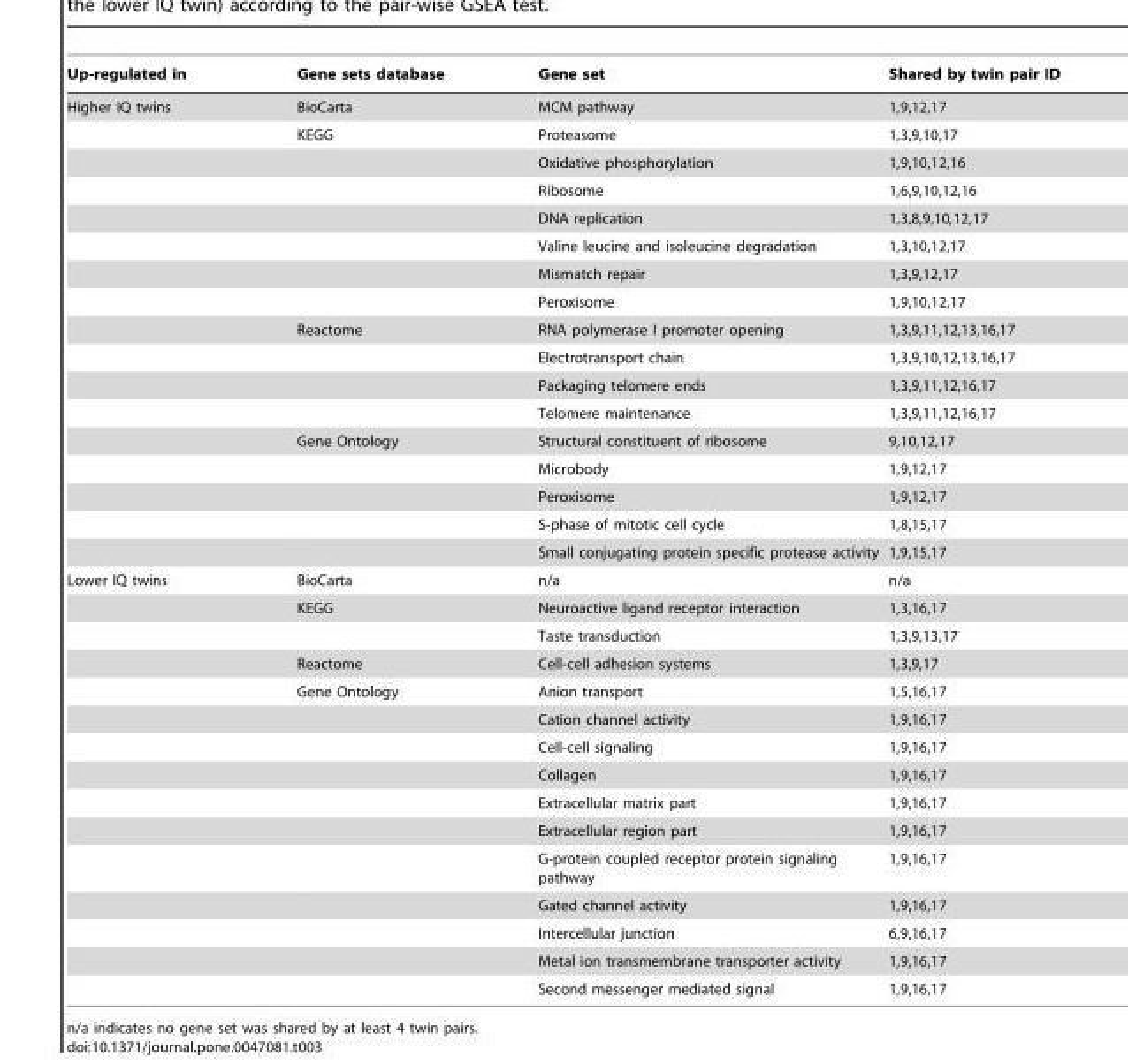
<table><thead><tr><td>Up-regulated in</td><td>Gene sets database</td><td>Gene set</td><td>Shared by twin pair ID</td></tr></thead><tbody><tr><td rowspan="17">Higher IQ twins</td><td>BioCarta</td><td>MCM pathway</td><td>1,9,12,17</td></tr><tr><td>KEGG</td><td>Proteasome</td><td>1,3,9,10,17</td></tr><tr><td></td><td>Oxidative phosphorylation</td><td>1,9,10,12,16</td></tr><tr><td></td><td>Ribosome</td><td>1,6,9,10,12,16</td></tr><tr><td></td><td>DNA replication</td><td>1,3,8,9,10,12,17</td></tr><tr><td></td><td>Valine leucine and isoleucine degradation</td><td>1,3,10,12,17</td></tr><tr><td></td><td>Mismatch repair</td><td>1,3,9,12,17</td></tr><tr><td></td><td>Peroxisome</td><td>1,9,10,12,17</td></tr><tr><td>Reactome</td><td>RNA polymerase I promoter opening</td><td>1,3,9,11,12,13,16,17</td></tr><tr><td></td><td>Electrotransport chain</td><td>1,3,9,10,12,13,16,17</td></tr><tr><td></td><td>Packaging telomere ends</td><td>1,3,9,11,12,16,17</td></tr><tr><td></td><td>Telomere maintenance</td><td>1,3,9,11,12,16,17</td></tr><tr><td>Gene Ontology</td><td>Structural constituent of ribosome</td><td>9,10,12,17</td></tr><tr><td></td><td>Microbody</td><td>1,9,12,17</td></tr><tr><td></td><td>Peroxisome</td><td>1,9,12,17</td></tr><tr><td></td><td>S-phase of mitotic cell cycle</td><td>1,8,15,17</td></tr><tr><td></td><td>Small conjugating protein specific protease activity</td><td>1,9,15,17</td></tr><tr><td rowspan="15">Lower IQ twins</td><td>BioCarta</td><td>n/a</td><td>n/a</td></tr><tr><td>KEGG</td><td>Neuroactive ligand receptor interaction</td><td>1,3,16,17</td></tr><tr><td></td><td>Taste transduction</td><td>1,3,9,13,17</td></tr><tr><td>Reactome</td><td>Cell-cell adhesion systems</td><td>1,3,9,17</td></tr><tr><td>Gene Ontology</td><td>Anion transport</td><td>1,5,16,17</td></tr><tr><td></td><td>Cation channel activity</td><td>1,9,16,17</td></tr><tr><td></td><td>Cell-cell signaling</td><td>1,9,16,17</td></tr><tr><td></td><td>Collagen</td><td>1,9,16,17</td></tr><tr><td></td><td>Extracellular matrix part</td><td>1,9,16,17</td></tr><tr><td></td><td>Extracellular region part</td><td>1,9,16,17</td></tr><tr><td></td><td>G-protein coupled receptor protein signaling pathway</td><td>1,9,16,17</td></tr><tr><td></td><td>Gated channel activity</td><td>1,9,16,17</td></tr><tr><td></td><td>Intercellular junction</td><td>6,9,16,17</td></tr><tr><td></td><td>Metal ion transmembrane transporter activity</td><td>1,9,16,17</td></tr><tr><td></td><td>Second messenger mediated signal</td><td>1,9,16,17</td></tr></tbody></table>